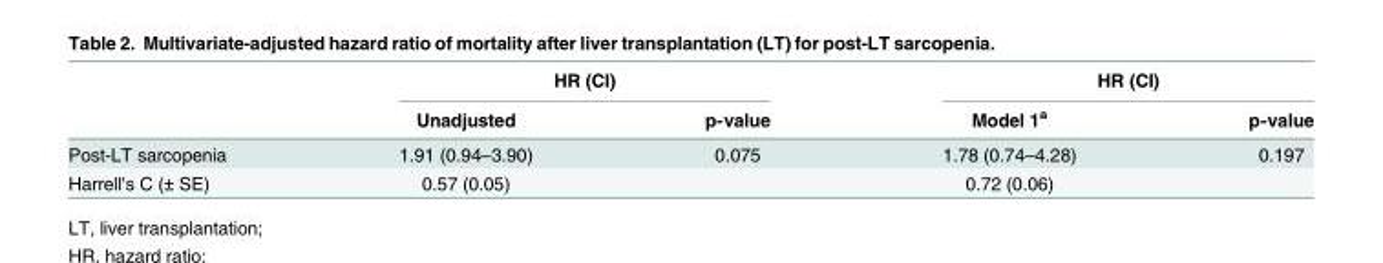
<table><thead><tr><td rowspan="2"></td><td colspan="2">HR (CI)</td><td colspan="2">HR (CI)</td></tr><tr><td>Unadjusted</td><td>p-value</td><td>Model 1<sup>a</sup></td><td>p-value</td></tr></thead><tbody><tr><td>Post-LT sarcopenia</td><td>1.91 (0.94–3.90)</td><td>0.075</td><td>1.78 (0.74–4.28)</td><td>0.197</td></tr><tr><td>Harrell&#x27;s C (± SE)</td><td>0.57 (0.05)</td><td></td><td>0.72 (0.06)</td><td></td></tr></tbody></table>